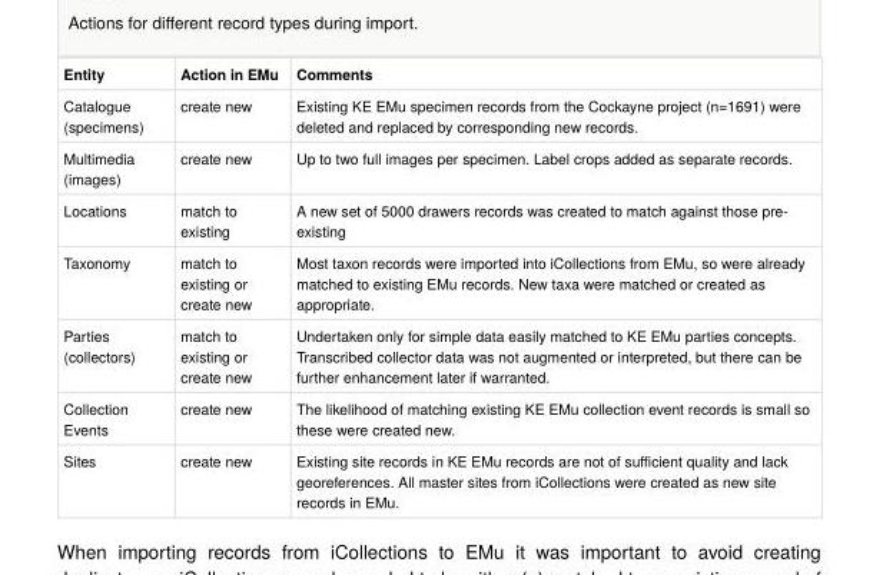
<table><tbody><tr><td>Entity</td><td>Action in EMu</td><td>Comments</td></tr><tr><td>Catalogue (specimens)</td><td>create new</td><td>Existing KE EMu specimen records from the Cockayne project (n=1691) were deleted and replaced by corresponding new records.</td></tr><tr><td>Multimedia (images)</td><td>create new</td><td>Up to two full images per specimen. Label crops added as separate records.</td></tr><tr><td>Locations</td><td>match to existing</td><td>A new set of 5000 drawers records was created to match against those pre- existing</td></tr><tr><td>Taxonomy</td><td>match to existing or create new</td><td>Most taxon records were imported into iCollections from EMu, so were already matched to existing EMu records. New taxa were matched or created as appropriate.</td></tr><tr><td>Parties (collectors)</td><td>match to existing or create new</td><td>Undertaken only for simple data easily matched to KE EMu parties concepts. Transcribed collector data was not augmented or interpreted, but there can be further enhancement later if warranted.</td></tr><tr><td>Collection Events</td><td>create new</td><td>The likelihood of matching existing KE EMu collection event records is small so these were created new.</td></tr><tr><td>Sites</td><td>create new</td><td>Existing site records in KE EMu records are not of sufficient quality and lack georeferences. All master sites from iCollections were created as new site records in EMu.</td></tr></tbody></table>